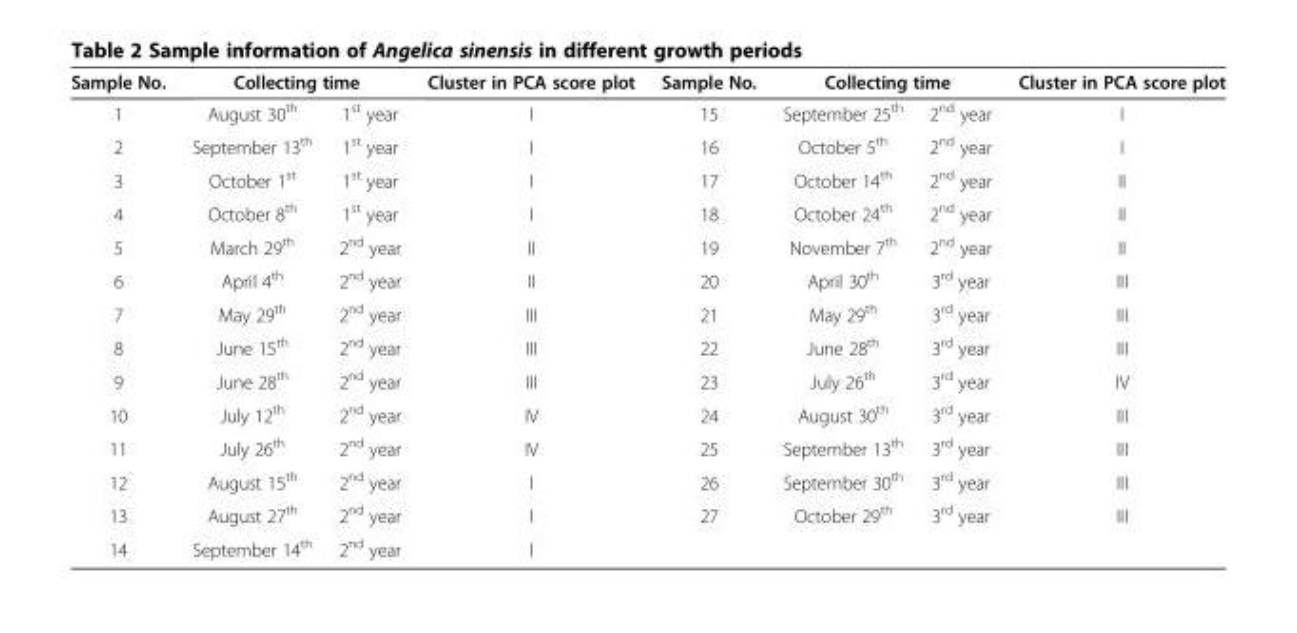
<table><thead><tr><td rowspan="2">Sample No. 1</td><td colspan="2">Collecting time</td><td rowspan="2">Cluster in PCA score plot I</td><td rowspan="2">Sample No. 15</td><td colspan="2">Collecting time</td><td rowspan="2">Cluster in PCA score plot I</td></tr><tr><td>August 30<sup>th</sup></td><td>1<sup>st</sup> year</td><td>September 25<sup>th</sup></td><td>2<sup>nd</sup> year</td></tr></thead><tbody><tr><td>2</td><td>September 13<sup>th</sup></td><td>1<sup>st</sup> year</td><td>I</td><td>16</td><td>October 5<sup>th</sup></td><td>2<sup>nd</sup> year</td><td>I</td></tr><tr><td>3</td><td>October 1<sup>st</sup></td><td>1<sup>st</sup> year</td><td>I</td><td>17</td><td>October 14<sup>th</sup></td><td>2<sup>nd</sup> year</td><td>II</td></tr><tr><td>4</td><td>October 8<sup>th</sup></td><td>1<sup>st</sup> year</td><td>I</td><td>18</td><td>October 24<sup>th</sup></td><td>2<sup>nd</sup> year</td><td>II</td></tr><tr><td>5</td><td>March 29<sup>th</sup></td><td>2<sup>nd</sup> year</td><td>II</td><td>19</td><td>November 7<sup>th</sup></td><td>2<sup>nd</sup> year</td><td>II</td></tr><tr><td>6</td><td>April 4<sup>th</sup></td><td>2<sup>nd</sup> year</td><td>II</td><td>20</td><td>April 30<sup>th</sup></td><td>3<sup>rd</sup> year</td><td>III</td></tr><tr><td>7</td><td>May 29<sup>th</sup></td><td>2<sup>nd</sup> year</td><td>III</td><td>21</td><td>May 29<sup>th</sup></td><td>3<sup>rd</sup> year</td><td>III</td></tr><tr><td>8</td><td>June 15<sup>th</sup></td><td>2<sup>nd</sup> year</td><td>III</td><td>22</td><td>June 28<sup>th</sup></td><td>3<sup>rd</sup> year</td><td>III</td></tr><tr><td>9</td><td>June 28<sup>th</sup></td><td>2<sup>nd</sup> year</td><td>III</td><td>23</td><td>July 26<sup>th</sup></td><td>3<sup>rd</sup> year</td><td>IV</td></tr><tr><td>10</td><td>July 12<sup>th</sup></td><td>2<sup>nd</sup> year</td><td>IV</td><td>24</td><td>August 30<sup>th</sup></td><td>3<sup>rd</sup> year</td><td>III</td></tr><tr><td>11</td><td>July 26<sup>th</sup></td><td>2<sup>nd</sup> year</td><td>IV</td><td>25</td><td>September 13<sup>th</sup></td><td>3<sup>rd</sup> year</td><td>III</td></tr><tr><td>12</td><td>August 15<sup>th</sup></td><td>2<sup>nd</sup> year</td><td>I</td><td>26</td><td>September 30<sup>th</sup></td><td>3<sup>rd</sup> year</td><td>III</td></tr><tr><td>13</td><td>August 27<sup>th</sup></td><td>2<sup>nd</sup> year</td><td>I</td><td>27</td><td>October 29<sup>th</sup></td><td>3<sup>rd</sup> year</td><td>III</td></tr><tr><td>14</td><td>September 14<sup>th</sup></td><td>2<sup>nd</sup> year</td><td>I</td><td></td><td></td><td></td><td></td></tr></tbody></table>